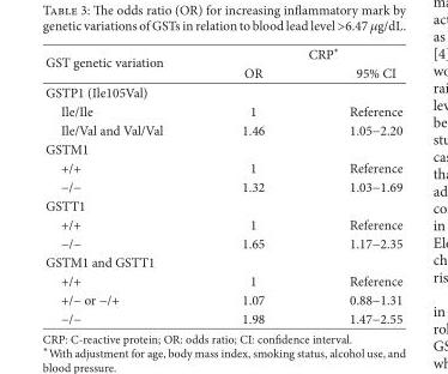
<table><thead><tr><td rowspan="2">GST genetic variation</td><td colspan="2">CRP∗</td></tr><tr><td>OR</td><td>95% CI</td></tr></thead><tbody><tr><td colspan="3">GSTP1 (Ile105Val)</td></tr><tr><td>Ile/Ile</td><td>1</td><td>Reference</td></tr><tr><td>Ile/Val and Val/Val</td><td>1.46</td><td>1.05−2.20</td></tr><tr><td colspan="3">GSTM1</td></tr><tr><td>+/+</td><td>1</td><td>Reference</td></tr><tr><td>−/−</td><td>1.32</td><td>1.03−1.69</td></tr><tr><td colspan="3">GSTT1</td></tr><tr><td>+/+</td><td>1</td><td>Reference</td></tr><tr><td>−/−</td><td>1.65</td><td>1.17−2.35</td></tr><tr><td colspan="3">GSTM1 and GSTT1</td></tr><tr><td>+/+</td><td>1</td><td>Reference</td></tr><tr><td>+/− or −/+</td><td>1.07</td><td>0.88−1.31</td></tr><tr><td>−/−</td><td>1.98</td><td>1.47−2.55</td></tr></tbody></table>